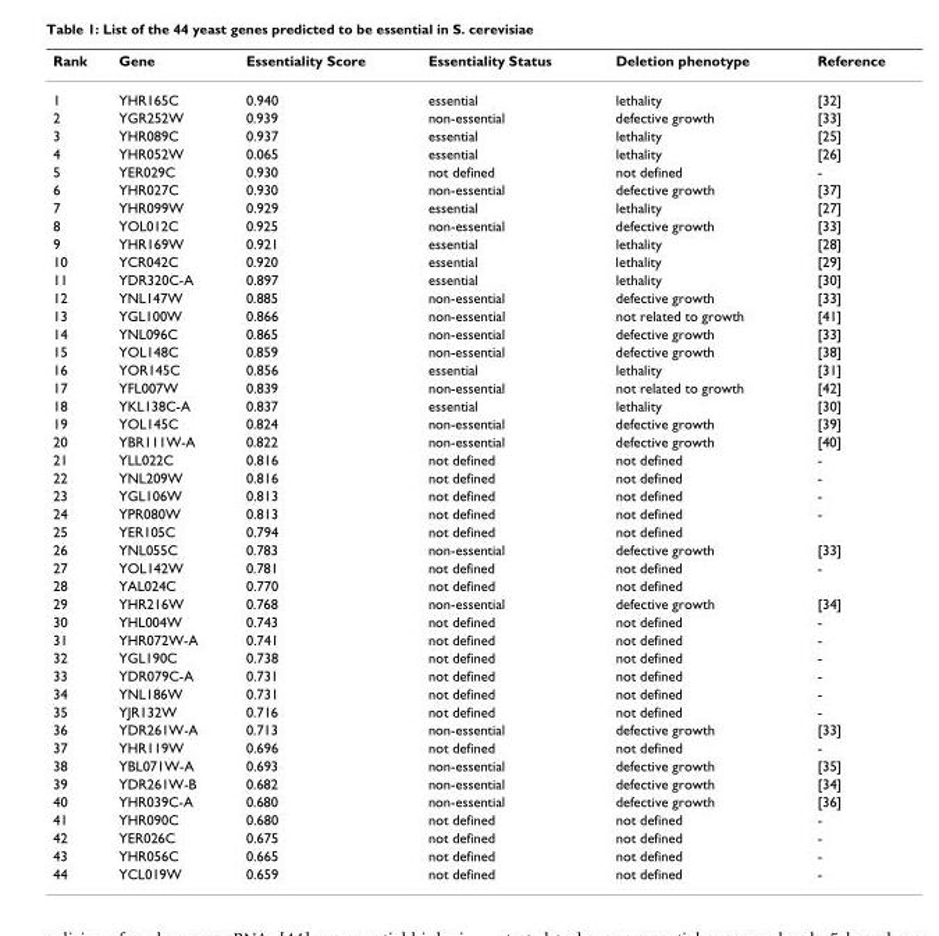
<table><thead><tr><td>Rank</td><td>Gene</td><td>Essentiality Score</td><td>Essentiality Status</td><td>Deletion phenotype</td><td>Reference</td></tr></thead><tbody><tr><td>1</td><td>YHR165C</td><td>0.940</td><td>essential</td><td>lethality</td><td>[32]</td></tr><tr><td>2</td><td>YGR252W</td><td>0.939</td><td>non-essential</td><td>defective growth</td><td>[33]</td></tr><tr><td>3</td><td>YHR089C</td><td>0.937</td><td>essential</td><td>lethality</td><td>[25]</td></tr><tr><td>4</td><td>YHR052W</td><td>0.065</td><td>essential</td><td>lethality</td><td>[26]</td></tr><tr><td>5</td><td>YER029C</td><td>0.930</td><td>not defined</td><td>not defined</td><td>-</td></tr><tr><td>6</td><td>YHR027C</td><td>0.930</td><td>non-essential</td><td>defective growth</td><td>[37]</td></tr><tr><td>7</td><td>YHR099W</td><td>0.929</td><td>essential</td><td>lethality</td><td>[27]</td></tr><tr><td>8</td><td>YOL012C</td><td>0.925</td><td>non-essential</td><td>defective growth</td><td>[33]</td></tr><tr><td>9</td><td>YHR169W</td><td>0.921</td><td>essential</td><td>lethality</td><td>[28]</td></tr><tr><td>10</td><td>YCR042C</td><td>0.920</td><td>essential</td><td>lethality</td><td>[29]</td></tr><tr><td>11</td><td>YDR320C-A</td><td>0.897</td><td>essential</td><td>lethality</td><td>[30]</td></tr><tr><td>12</td><td>YNL147W</td><td>0.885</td><td>non-essential</td><td>defective growth</td><td>[33]</td></tr><tr><td>13</td><td>YGL100W</td><td>0.866</td><td>non-essential</td><td>not related to growth</td><td>[41]</td></tr><tr><td>14</td><td>YNL096C</td><td>0.865</td><td>non-essential</td><td>defective growth</td><td>[33]</td></tr><tr><td>15</td><td>YOL148C</td><td>0.859</td><td>non-essential</td><td>defective growth</td><td>[38]</td></tr><tr><td>16</td><td>YOR145C</td><td>0.856</td><td>essential</td><td>lethality</td><td>[31]</td></tr><tr><td>17</td><td>YFL007W</td><td>0.839</td><td>non-essential</td><td>not related to growth</td><td>[42]</td></tr><tr><td>18</td><td>YKL138C-A</td><td>0.837</td><td>essential</td><td>lethality</td><td>[30]</td></tr><tr><td>19</td><td>YOL145C</td><td>0.824</td><td>non-essential</td><td>defective growth</td><td>[39]</td></tr><tr><td>20</td><td>YBR111W-A</td><td>0.822</td><td>non-essential</td><td>defective growth</td><td>[40]</td></tr><tr><td>21</td><td>YLL022C</td><td>0.816</td><td>not defined</td><td>not defined</td><td>-</td></tr><tr><td>22</td><td>YNL209W</td><td>0.816</td><td>not defined</td><td>not defined</td><td>-</td></tr><tr><td>23</td><td>YGL106W</td><td>0.813</td><td>not defined</td><td>not defined</td><td>-</td></tr><tr><td>24</td><td>YPR080W</td><td>0.813</td><td>not defined</td><td>not defined</td><td>-</td></tr><tr><td>25</td><td>YER105C</td><td>0.794</td><td>not defined</td><td>not defined</td><td></td></tr><tr><td>26</td><td>YNL055C</td><td>0.783</td><td>non-essential</td><td>defective growth</td><td>[33]</td></tr><tr><td>27</td><td>YOL142W</td><td>0.781</td><td>not defined</td><td>not defined</td><td>-</td></tr><tr><td>28</td><td>YAL024C</td><td>0.770</td><td>not defined</td><td>not defined</td><td></td></tr><tr><td>29</td><td>YHR216W</td><td>0.768</td><td>non-essential</td><td>defective growth</td><td>[34]</td></tr><tr><td>30</td><td>YHL004W</td><td>0.743</td><td>not defined</td><td>not defined</td><td>-</td></tr><tr><td>31</td><td>YHR072W-A</td><td>0.741</td><td>not defined</td><td>not defined</td><td>-</td></tr><tr><td>32</td><td>YGL190C</td><td>0.738</td><td>not defined</td><td>not defined</td><td>-</td></tr><tr><td>33</td><td>YDR079C-A</td><td>0.731</td><td>not defined</td><td>not defined</td><td>-</td></tr><tr><td>34</td><td>YNL186W</td><td>0.731</td><td>not defined</td><td>not defined</td><td>-</td></tr><tr><td>35</td><td>YJR132W</td><td>0.716</td><td>not defined</td><td>not defined</td><td>-</td></tr><tr><td>36</td><td>YDR261W-A</td><td>0.713</td><td>non-essential</td><td>defective growth</td><td>[33]</td></tr><tr><td>37</td><td>YHR119W</td><td>0.696</td><td>not defined</td><td>not defined</td><td>-</td></tr><tr><td>38</td><td>YBL071W-A</td><td>0.693</td><td>non-essential</td><td>defective growth</td><td>[35]</td></tr><tr><td>39</td><td>YDR261W-B</td><td>0.682</td><td>non-essential</td><td>defective growth</td><td>[34]</td></tr><tr><td>40</td><td>YHR039C-A</td><td>0.680</td><td>non-essential</td><td>defective growth</td><td>[36]</td></tr><tr><td>41</td><td>YHR090C</td><td>0.680</td><td>not defined</td><td>not defined</td><td>-</td></tr><tr><td>42</td><td>YER026C</td><td>0.675</td><td>not defined</td><td>not defined</td><td>-</td></tr><tr><td>43</td><td>YHR056C</td><td>0.665</td><td>not defined</td><td>not defined</td><td>-</td></tr><tr><td>44</td><td>YCL019W</td><td>0.659</td><td>not defined</td><td>not defined</td><td>-</td></tr></tbody></table>